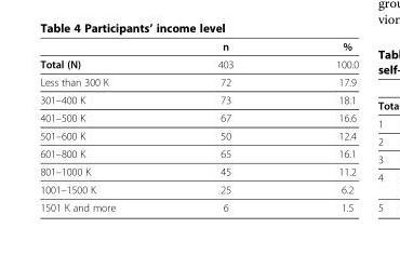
<table><thead><tr><td></td><td>n</td><td>%</td></tr></thead><tbody><tr><td>Total (N)</td><td>403</td><td>100.0</td></tr><tr><td>Less than 300 K</td><td>72</td><td>17.9</td></tr><tr><td>301–400 K</td><td>73</td><td>18.1</td></tr><tr><td>401–500 K</td><td>67</td><td>16.6</td></tr><tr><td>501–600 K</td><td>50</td><td>12.4</td></tr><tr><td>601–800 K</td><td>65</td><td>16.1</td></tr><tr><td>801–1000 K</td><td>45</td><td>11.2</td></tr><tr><td>1001–1500 K</td><td>25</td><td>6.2</td></tr><tr><td>1501 K and more</td><td>6</td><td>1.5</td></tr></tbody></table>